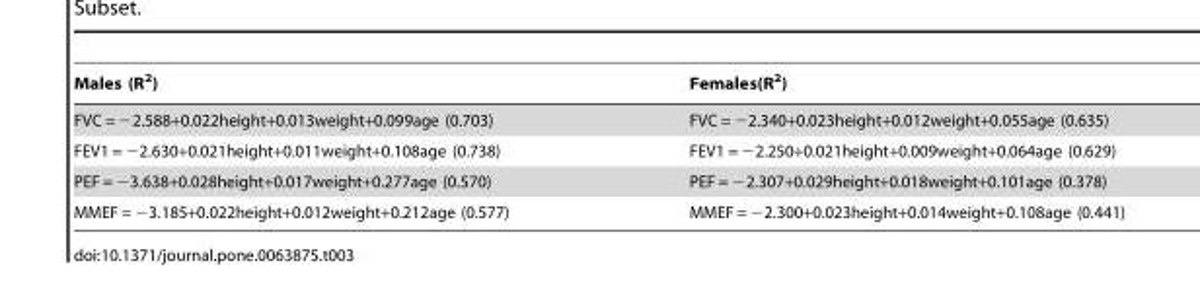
<table><thead><tr><td>Males (R<sup>2</sup>)</td><td>Females(R<sup>2</sup>)</td></tr></thead><tbody><tr><td>FVC = −2.588+0.022height+0.013weight+0.099age (0.703)</td><td>FVC = −2.340+0.023height+0.012weight+0.055age (0.635)</td></tr><tr><td>FEV1 = −2.630+0.021height+0.011weight+0.108age (0.738)</td><td>FEV1 = −2.250+0.021height+0.009weight+0.064age (0.629)</td></tr><tr><td>PEF = −3.638+0.028height+0.017weight+0.277age (0.570)</td><td>PEF = −2.307+0.029height+0.018weight+0.101age (0.378)</td></tr><tr><td>MMEF = −3.185+0.022height+0.012weight+0.212age (0.577)</td><td>MMEF = −2.300+0.023height+0.014weight+0.108age (0.441)</td></tr></tbody></table>